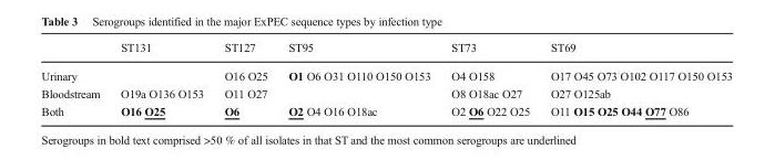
<table><thead><tr><td></td><td>ST131</td><td>ST127</td><td>ST95</td><td>ST73</td><td>ST69</td></tr></thead><tbody><tr><td>Urinary</td><td></td><td>O16 O25</td><td>O1 O6 O31 O110 O150 O153</td><td>O4 O158</td><td>O17 O45 O73 O102 O117 O150 O153</td></tr><tr><td>Bloodstream</td><td>O19a O136 O153</td><td>O11 O27</td><td></td><td>O8 O18ac O27</td><td>O27 O125ab</td></tr><tr><td>Both</td><td>O16 O25</td><td>O6</td><td>O2 O4 O16 O18ac</td><td>O2 O6 O22 O25</td><td>O11 O15 O25 O44 O77 O86</td></tr></tbody></table>